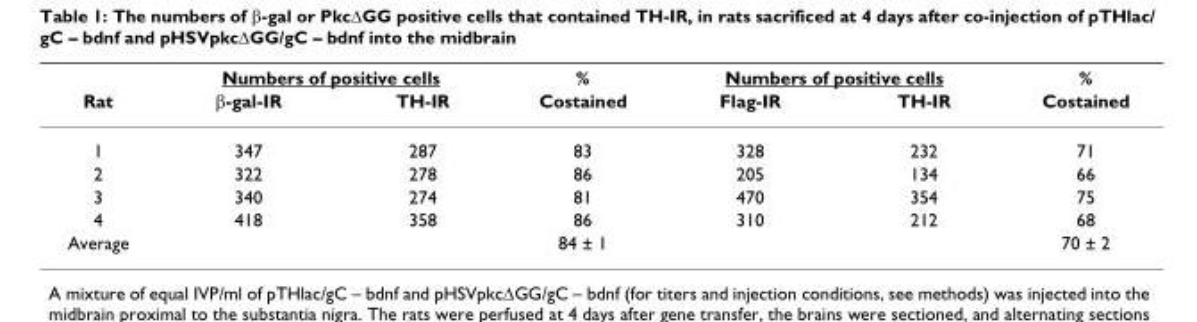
<table><thead><tr><td rowspan="2">Rat</td><td colspan="2">Numbers of positive cells</td><td rowspan="2">% Costained</td><td colspan="2">Numbers of positive cells</td><td rowspan="2">% Costained</td></tr><tr><td>β-gal-IR</td><td>TH-IR</td><td>Flag-IR</td><td>TH-IR</td></tr></thead><tbody><tr><td>1</td><td>347</td><td>287</td><td>83</td><td>328</td><td>232</td><td>71</td></tr><tr><td>2</td><td>322</td><td>278</td><td>86</td><td>205</td><td>134</td><td>66</td></tr><tr><td>3</td><td>340</td><td>274</td><td>81</td><td>470</td><td>354</td><td>75</td></tr><tr><td>4</td><td>418</td><td>358</td><td>86</td><td>310</td><td>212</td><td>68</td></tr><tr><td>Average</td><td></td><td></td><td>84 ± 1</td><td></td><td></td><td>70 ± 2</td></tr></tbody></table>